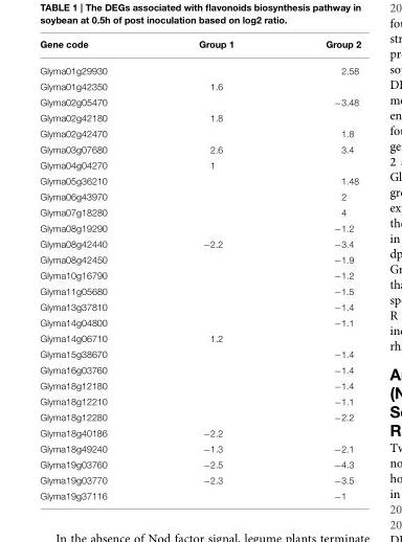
<table><thead><tr><td>Gene code</td><td>Group 1</td><td>Group 2</td></tr></thead><tbody><tr><td>Glyma01g29930</td><td></td><td>2.58</td></tr><tr><td>Glyma01g42350</td><td>1.6</td><td></td></tr><tr><td>Glyma02g05470</td><td></td><td>−3.48</td></tr><tr><td>Glyma02g42180</td><td>1.8</td><td></td></tr><tr><td>Glyma02g42470</td><td></td><td>1.8</td></tr><tr><td>Glyma03g07680</td><td>2.6</td><td>3.4</td></tr><tr><td>Glyma04g04270</td><td>1</td><td></td></tr><tr><td>Glyma05g36210</td><td></td><td>1.48</td></tr><tr><td>Glyma06g43970</td><td></td><td>2</td></tr><tr><td>Glyma07g18280</td><td></td><td>4</td></tr><tr><td>Glyma08g19290</td><td></td><td>−1.2</td></tr><tr><td>Glyma08g42440</td><td>−2.2</td><td>−3.4</td></tr><tr><td>Glyma08g42450</td><td></td><td>−1.9</td></tr><tr><td>Glyma10g16790</td><td></td><td>−1.2</td></tr><tr><td>Glyma11g05680</td><td></td><td>−1.5</td></tr><tr><td>Glyma13g37810</td><td></td><td>−1.4</td></tr><tr><td>Glyma14g04800</td><td></td><td>−1.1</td></tr><tr><td>Glyma14g06710</td><td>1.2</td><td></td></tr><tr><td>Glyma15g38670</td><td></td><td>−1.4</td></tr><tr><td>Glyma16g03760</td><td></td><td>−1.4</td></tr><tr><td>Glyma18g12180</td><td></td><td>−1.4</td></tr><tr><td>Glyma18g12210</td><td></td><td>−1.1</td></tr><tr><td>Glyma18g12280</td><td></td><td>−2.2</td></tr><tr><td>Glyma18g40186</td><td>−2.2</td><td></td></tr><tr><td>Glyma18g49240</td><td>−1.3</td><td>−2.1</td></tr><tr><td>Glyma19g03760</td><td>−2.5</td><td>−4.3</td></tr><tr><td>Glyma19g03770</td><td>−2.3</td><td>−3.5</td></tr><tr><td>Glyma19g37116</td><td></td><td>−1</td></tr></tbody></table>